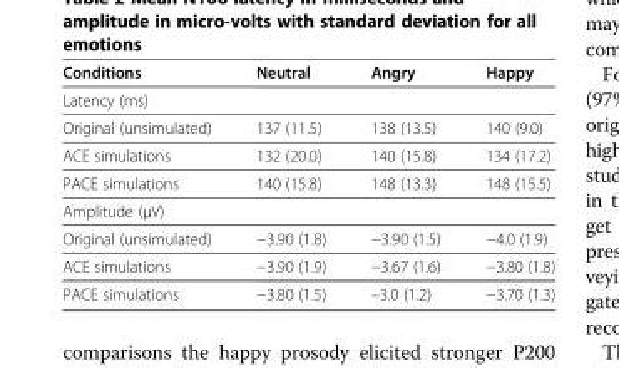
<table><thead><tr><td>Conditions</td><td>Neutral</td><td>Angry</td><td>Happy</td></tr></thead><tbody><tr><td colspan="4">Latency (ms)</td></tr><tr><td>Original (unsimulated)</td><td>137 (11.5)</td><td>138 (13.5)</td><td>140 (9.0)</td></tr><tr><td>ACE simulations</td><td>132 (20.0)</td><td>140 (15.8)</td><td>134 (17.2)</td></tr><tr><td>PACE simulations</td><td>140 (15.8)</td><td>148 (13.3)</td><td>148 (15.5)</td></tr><tr><td colspan="4">Amplitude (μV)</td></tr><tr><td>Original (unsimulated)</td><td>−3.90 (1.8)</td><td>−3.90 (1.5)</td><td>−4.0 (1.9)</td></tr><tr><td>ACE simulations</td><td>−3.90 (1.9)</td><td>−3.67 (1.6)</td><td>−3.80 (1.8)</td></tr><tr><td>PACE simulations</td><td>−3.80 (1.5)</td><td>–3.0 (1.2)</td><td>−3.70 (1.3)</td></tr></tbody></table>